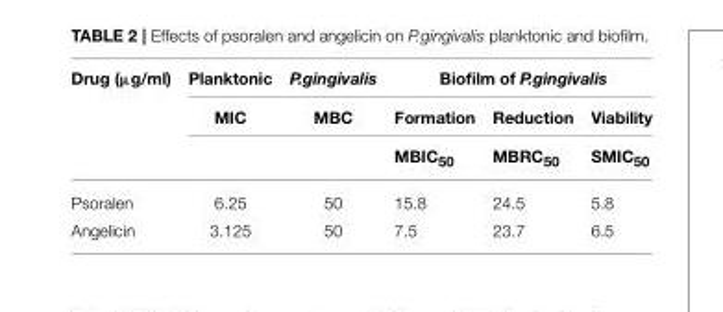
<table><thead><tr><td rowspan="3">Drug (µg/ml)</td><td rowspan="3">Planktonic MIC</td><td rowspan="3">P.gingivalis MBC</td><td colspan="3">Biofilm of P.gingivalis</td></tr><tr><td rowspan="2">Formation MBIC<sub>50</sub></td><td rowspan="2">Reduction MBRC<sub>50</sub></td><td rowspan="2">Viability SMIC<sub>50</sub></td></tr><tr></tr></thead><tbody><tr><td>Psoralen</td><td>6.25</td><td>50</td><td>15.8</td><td>24.5</td><td>5.8</td></tr><tr><td>Angelicin</td><td>3.125</td><td>50</td><td>7.5</td><td>23.7</td><td>6.5</td></tr></tbody></table>